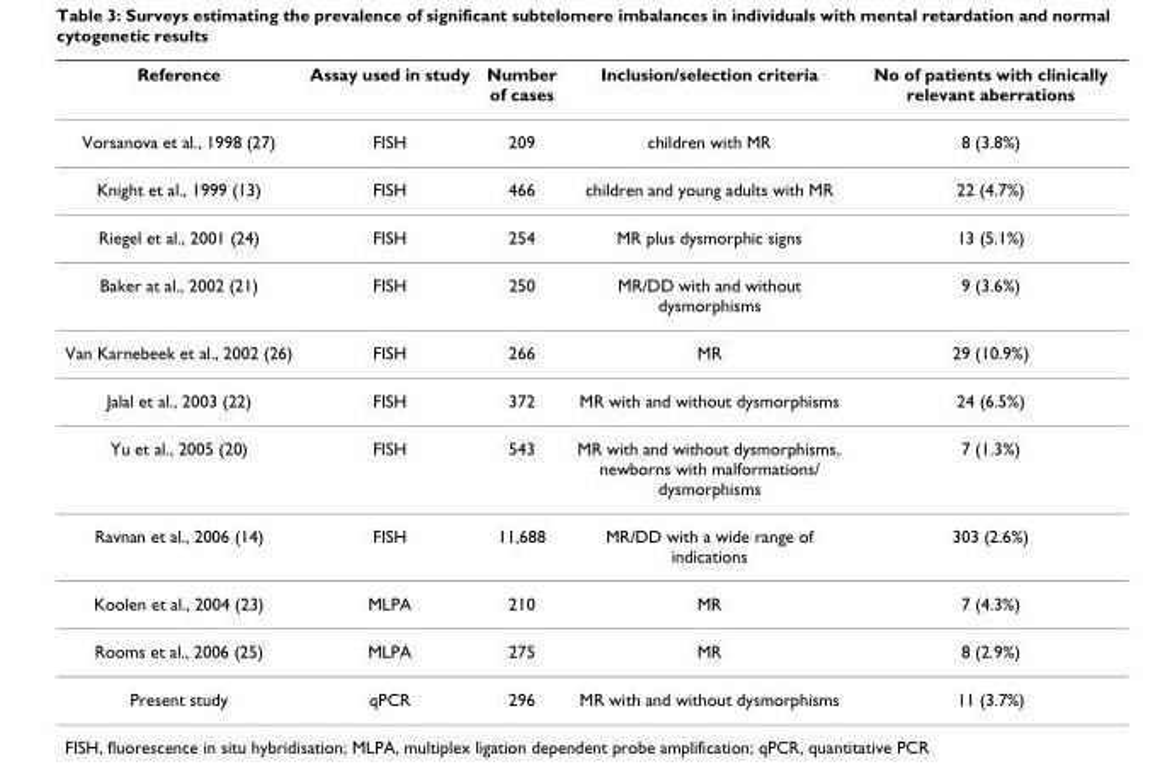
<table><thead><tr><td>Reference</td><td>Assay used in study</td><td>Number of cases</td><td>Inclusion/selection criteria</td><td>No of patients with clinically relevant aberrations</td></tr></thead><tbody><tr><td>Vorsanova et al., 1998 (27)</td><td>FISH</td><td>209</td><td>children with MR</td><td>8 (3.8%)</td></tr><tr><td>Knight et al., 1999 (13)</td><td>FISH</td><td>466</td><td>children and young adults with MR</td><td>22 (4.7%)</td></tr><tr><td>Riegel et al., 2001 (24)</td><td>FISH</td><td>254</td><td>MR plus dysmorphic signs</td><td>13 (5.1%)</td></tr><tr><td>Baker at al., 2002 (21)</td><td>FISH</td><td>250</td><td>MR/DD with and without dysmorphisms</td><td>9 (3.6%)</td></tr><tr><td>Van Karnebeek et al., 2002 (26)</td><td>FISH</td><td>266</td><td>MR</td><td>29 (10.9%)</td></tr><tr><td>Jalal et al., 2003 (22)</td><td>FISH</td><td>372</td><td>MR with and without dysmorphisms</td><td>24 (6.5%)</td></tr><tr><td>Yu et al., 2005 (20)</td><td>FISH</td><td>543</td><td>MR with and without dysmorphisms, newborns with malformations/ dysmorphisms</td><td>7 (1.3%)</td></tr><tr><td>Ravnan et al., 2006 (14)</td><td>FISH</td><td>11,688</td><td>MR/DD with a wide range of indications</td><td>303 (2.6%)</td></tr><tr><td>Koolen et al., 2004 (23)</td><td>MLPA</td><td>210</td><td>MR</td><td>7 (4.3%)</td></tr><tr><td>Rooms et al., 2006 (25)</td><td>MLPA</td><td>275</td><td>MR</td><td>8 (2.9%)</td></tr><tr><td>Present study</td><td>qPCR</td><td>296</td><td>MR with and without dysmorphisms</td><td>11 (3.7%)</td></tr></tbody></table>